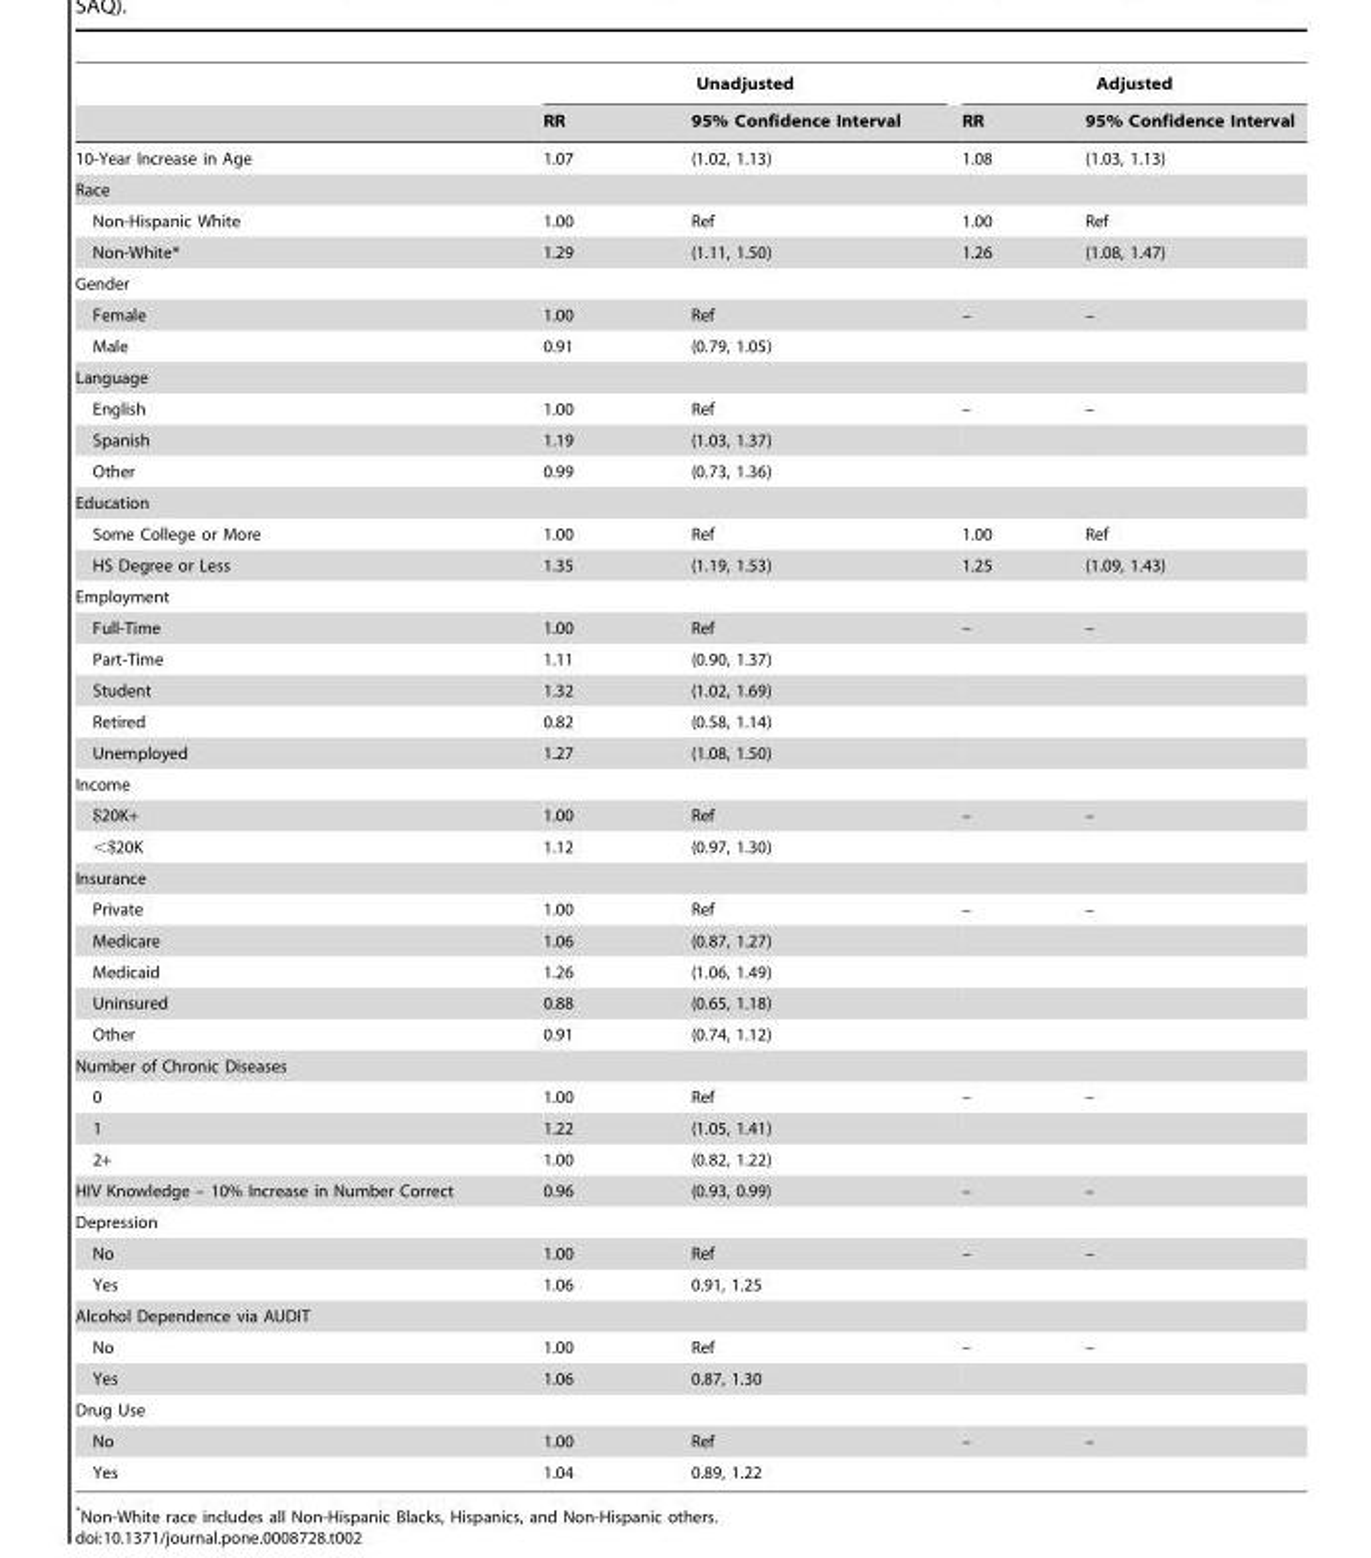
<table><thead><tr><td rowspan="2"></td><td colspan="2">Unadjusted</td><td colspan="2">Adjusted</td></tr><tr><td>RR</td><td>95% Confidence Interval</td><td>RR</td><td>95% Confidence Interval</td></tr></thead><tbody><tr><td>10-Year Increase in Age</td><td>1.07</td><td>(1.02, 1.13)</td><td>1.08</td><td>(1.03, 1.13)</td></tr><tr><td colspan="5">Race</td></tr><tr><td>Non-Hispanic White</td><td>1.00</td><td>Ref</td><td>1.00</td><td>Ref</td></tr><tr><td>Non-White*</td><td>1.29</td><td>(1.11, 1.50)</td><td>1.26</td><td>(1.08, 1.47)</td></tr><tr><td colspan="5">Gender</td></tr><tr><td>Female</td><td>1.00</td><td>Ref</td><td>–</td><td>–</td></tr><tr><td>Male</td><td>0.91</td><td>(0.79, 1.05)</td><td></td><td></td></tr><tr><td colspan="5">Language</td></tr><tr><td>English</td><td>1.00</td><td>Ref</td><td>–</td><td>–</td></tr><tr><td>Spanish</td><td>1.19</td><td>(1.03, 1.37)</td><td></td><td></td></tr><tr><td>Other</td><td>0.99</td><td>(0.73, 1.36)</td><td></td><td></td></tr><tr><td colspan="5">Education</td></tr><tr><td>Some College or More</td><td>1.00</td><td>Ref</td><td>1.00</td><td>Ref</td></tr><tr><td>HS Degree or Less</td><td>1.35</td><td>(1.19, 1.53)</td><td>1.25</td><td>(1.09, 1.43)</td></tr><tr><td colspan="5">Employment</td></tr><tr><td>Full-Time</td><td>1.00</td><td>Ref</td><td>–</td><td>–</td></tr><tr><td>Part-Time</td><td>1.11</td><td>(0.90, 1.37)</td><td></td><td></td></tr><tr><td>Student</td><td>1.32</td><td>(1.02, 1.69)</td><td></td><td></td></tr><tr><td>Retired</td><td>0.82</td><td>(0.58, 1.14)</td><td></td><td></td></tr><tr><td>Unemployed</td><td>1.27</td><td>(1.08, 1.50)</td><td></td><td></td></tr><tr><td colspan="5">Income</td></tr><tr><td>$20K+</td><td>1.00</td><td>Ref</td><td>–</td><td>–</td></tr><tr><td>&lt;$20K</td><td>1.12</td><td>(0.97, 1.30)</td><td></td><td></td></tr><tr><td colspan="5">Insurance</td></tr><tr><td>Private</td><td>1.00</td><td>Ref</td><td>–</td><td>–</td></tr><tr><td>Medicare</td><td>1.06</td><td>(0.87, 1.27)</td><td></td><td></td></tr><tr><td>Medicaid</td><td>1.26</td><td>(1.06, 1.49)</td><td></td><td></td></tr><tr><td>Uninsured</td><td>0.88</td><td>(0.65, 1.18)</td><td></td><td></td></tr><tr><td>Other</td><td>0.91</td><td>(0.74, 1.12)</td><td></td><td></td></tr><tr><td colspan="5">Number of Chronic Diseases</td></tr><tr><td>0</td><td>1.00</td><td>Ref</td><td>–</td><td>–</td></tr><tr><td>1</td><td>1.22</td><td>(1.05, 1.41)</td><td></td><td></td></tr><tr><td>2+</td><td>1.00</td><td>(0.82, 1.22)</td><td></td><td></td></tr><tr><td>HIV Knowledge – 10% Increase in Number Correct</td><td>0.96</td><td>(0.93, 0.99)</td><td>–</td><td>–</td></tr><tr><td colspan="5">Depression</td></tr><tr><td>No</td><td>1.00</td><td>Ref</td><td>–</td><td>–</td></tr><tr><td>Yes</td><td>1.06</td><td>0.91, 1.25</td><td></td><td></td></tr><tr><td colspan="5">Alcohol Dependence via AUDIT</td></tr><tr><td>No</td><td>1.00</td><td>Ref</td><td>–</td><td>–</td></tr><tr><td>Yes</td><td>1.06</td><td>0.87, 1.30</td><td></td><td></td></tr><tr><td colspan="5">Drug Use</td></tr><tr><td>No</td><td>1.00</td><td>Ref</td><td>–</td><td>–</td></tr><tr><td>Yes</td><td>1.04</td><td>0.89, 1.22</td><td></td><td></td></tr></tbody></table>